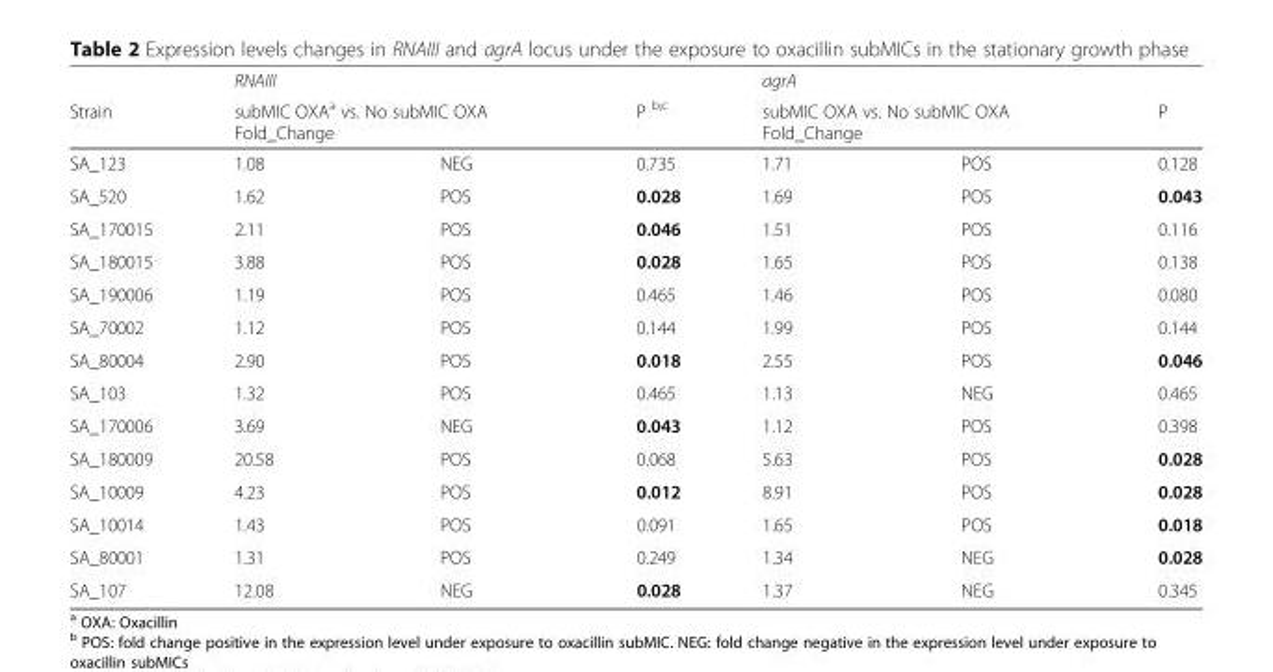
<table><thead><tr><td rowspan="2">Strain</td><td>RNAIII</td><td></td><td rowspan="2">P <sup>b;c</sup></td><td>agrA</td><td></td><td rowspan="2">P</td></tr><tr><td colspan="2">subMIC OXA<sup>a</sup> vs. No subMIC OXA Fold_Change</td><td colspan="2">subMIC OXA vs. No subMIC OXA Fold_Change</td></tr></thead><tbody><tr><td>SA_123</td><td>1.08</td><td>NEG</td><td>0.735</td><td>1.71</td><td>POS</td><td>0.128</td></tr><tr><td>SA_520</td><td>1.62</td><td>POS</td><td>0.028</td><td>1.69</td><td>POS</td><td>0.043</td></tr><tr><td>SA_170015</td><td>2.11</td><td>POS</td><td>0.046</td><td>1.51</td><td>POS</td><td>0.116</td></tr><tr><td>SA_180015</td><td>3.88</td><td>POS</td><td>0.028</td><td>1.65</td><td>POS</td><td>0.138</td></tr><tr><td>SA_190006</td><td>1.19</td><td>POS</td><td>0.465</td><td>1.46</td><td>POS</td><td>0.080</td></tr><tr><td>SA_70002</td><td>1.12</td><td>POS</td><td>0.144</td><td>1.99</td><td>POS</td><td>0.144</td></tr><tr><td>SA_80004</td><td>2.90</td><td>POS</td><td>0.018</td><td>2.55</td><td>POS</td><td>0.046</td></tr><tr><td>SA_103</td><td>1.32</td><td>POS</td><td>0.465</td><td>1.13</td><td>NEG</td><td>0.465</td></tr><tr><td>SA_170006</td><td>3.69</td><td>NEG</td><td>0.043</td><td>1.12</td><td>POS</td><td>0.398</td></tr><tr><td>SA_180009</td><td>20.58</td><td>POS</td><td>0.068</td><td>5.63</td><td>POS</td><td>0.028</td></tr><tr><td>SA_10009</td><td>4.23</td><td>POS</td><td>0.012</td><td>8.91</td><td>POS</td><td>0.028</td></tr><tr><td>SA_10014</td><td>1.43</td><td>POS</td><td>0.091</td><td>1.65</td><td>POS</td><td>0.018</td></tr><tr><td>SA_80001</td><td>1.31</td><td>POS</td><td>0.249</td><td>1.34</td><td>NEG</td><td>0.028</td></tr><tr><td>SA_107</td><td>12.08</td><td>NEG</td><td>0.028</td><td>1.37</td><td>NEG</td><td>0.345</td></tr></tbody></table>